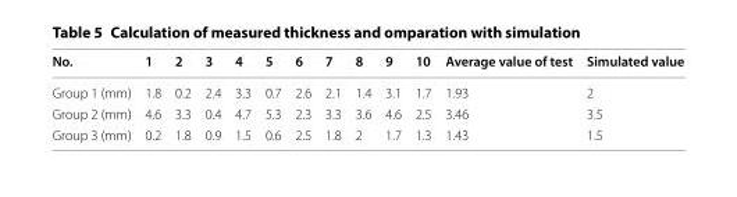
<table><thead><tr><td>No.</td><td>1</td><td>2</td><td>3</td><td>4</td><td>5</td><td>6</td><td>7</td><td>8</td><td>9</td><td>10</td><td>Average value of test</td><td>Simulated value</td></tr></thead><tbody><tr><td>Group 1 (mm)</td><td>1.8</td><td>0.2</td><td>2.4</td><td>3.3</td><td>0.7</td><td>2.6</td><td>2.1</td><td>1.4</td><td>3.1</td><td>1.7</td><td>1.93</td><td>2</td></tr><tr><td>Group 2 (mm)</td><td>4.6</td><td>3.3</td><td>0.4</td><td>4.7</td><td>5.3</td><td>2.3</td><td>3.3</td><td>3.6</td><td>4.6</td><td>2.5</td><td>3.46</td><td>3.5</td></tr><tr><td>Group 3 (mm)</td><td>0.2</td><td>1.8</td><td>0.9</td><td>1.5</td><td>0.6</td><td>2.5</td><td>1.8</td><td>2</td><td>1.7</td><td>1.3</td><td>1.43</td><td>1.5</td></tr></tbody></table>